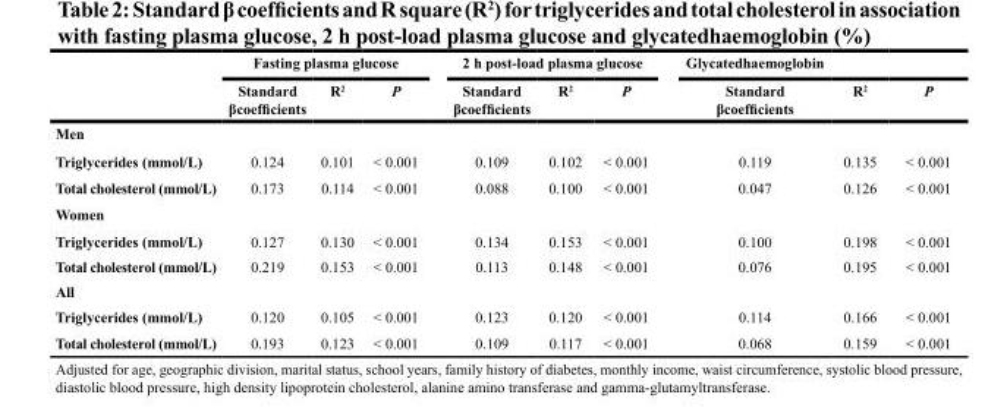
<table><thead><tr><td rowspan="2"></td><td colspan="3">Fasting plasma glucose</td><td colspan="3">2 h post-load plasma glucose</td><td rowspan="2">Glycatedhaemoglobin Standard βcoefficients</td><td rowspan="2">R<sup>2</sup></td><td rowspan="2">P</td></tr><tr><td>Standard βcoefficients</td><td>R<sup>2</sup></td><td>P</td><td>Standard βcoefficients</td><td>R<sup>2</sup></td><td>P</td></tr></thead><tbody><tr><td colspan="10">Men</td></tr><tr><td>Triglycerides (mmol/L)</td><td>0.124</td><td>0.101</td><td>&lt; 0.001</td><td>0.109</td><td>0.102</td><td>&lt; 0.001</td><td>0.119</td><td>0.135</td><td>&lt; 0.001</td></tr><tr><td>Total cholesterol (mmol/L)</td><td>0.173</td><td>0.114</td><td>&lt; 0.001</td><td>0.088</td><td>0.100</td><td>&lt; 0.001</td><td>0.047</td><td>0.126</td><td>&lt; 0.001</td></tr><tr><td colspan="10">Women</td></tr><tr><td>Triglycerides (mmol/L)</td><td>0.127</td><td>0.130</td><td>&lt; 0.001</td><td>0.134</td><td>0.153</td><td>&lt; 0.001</td><td>0.100</td><td>0.198</td><td>&lt; 0.001</td></tr><tr><td>Total cholesterol (mmol/L)</td><td>0.219</td><td>0.153</td><td>&lt; 0.001</td><td>0.113</td><td>0.148</td><td>&lt; 0.001</td><td>0.076</td><td>0.195</td><td>&lt; 0.001</td></tr><tr><td colspan="10">All</td></tr><tr><td>Triglycerides (mmol/L)</td><td>0.120</td><td>0.105</td><td>&lt; 0.001</td><td>0.123</td><td>0.120</td><td>&lt; 0.001</td><td>0.114</td><td>0.166</td><td>&lt; 0.001</td></tr><tr><td>Total cholesterol (mmol/L)</td><td>0.193</td><td>0.123</td><td>&lt; 0.001</td><td>0.109</td><td>0.117</td><td>&lt; 0.001</td><td>0.068</td><td>0.159</td><td>&lt; 0.001</td></tr></tbody></table>